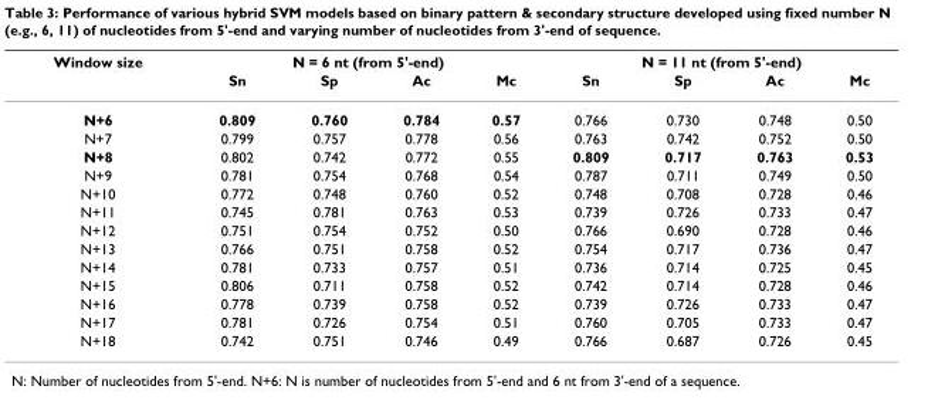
<table><thead><tr><td rowspan="2">Window size</td><td colspan="4">N = 6 nt (from 5&#x27;-end)</td><td colspan="4">N = 11 nt (from 5&#x27;-end)</td></tr><tr><td>Sn</td><td>Sp</td><td>Ac</td><td>Mc</td><td>Sn</td><td>Sp</td><td>Ac</td><td>Mc</td></tr></thead><tbody><tr><td>N+6</td><td>0.809</td><td>0.760</td><td>0.784</td><td>0.57</td><td>0.766</td><td>0.730</td><td>0.748</td><td>0.50</td></tr><tr><td>N+7</td><td>0.799</td><td>0.757</td><td>0.778</td><td>0.56</td><td>0.763</td><td>0.742</td><td>0.752</td><td>0.50</td></tr><tr><td>N+8</td><td>0.802</td><td>0.742</td><td>0.772</td><td>0.55</td><td>0.809</td><td>0.717</td><td>0.763</td><td>0.53</td></tr><tr><td>N+9</td><td>0.781</td><td>0.754</td><td>0.768</td><td>0.54</td><td>0.787</td><td>0.711</td><td>0.749</td><td>0.50</td></tr><tr><td>N+10</td><td>0.772</td><td>0.748</td><td>0.760</td><td>0.52</td><td>0.748</td><td>0.708</td><td>0.728</td><td>0.46</td></tr><tr><td>N+11</td><td>0.745</td><td>0.781</td><td>0.763</td><td>0.53</td><td>0.739</td><td>0.726</td><td>0.733</td><td>0.47</td></tr><tr><td>N+12</td><td>0.751</td><td>0.754</td><td>0.752</td><td>0.50</td><td>0.766</td><td>0.690</td><td>0.728</td><td>0.46</td></tr><tr><td>N+13</td><td>0.766</td><td>0.751</td><td>0.758</td><td>0.52</td><td>0.754</td><td>0.717</td><td>0.736</td><td>0.47</td></tr><tr><td>N+14</td><td>0.781</td><td>0.733</td><td>0.757</td><td>0.51</td><td>0.736</td><td>0.714</td><td>0.725</td><td>0.45</td></tr><tr><td>N+15</td><td>0.806</td><td>0.711</td><td>0.758</td><td>0.52</td><td>0.742</td><td>0.714</td><td>0.728</td><td>0.46</td></tr><tr><td>N+16</td><td>0.778</td><td>0.739</td><td>0.758</td><td>0.52</td><td>0.739</td><td>0.726</td><td>0.733</td><td>0.47</td></tr><tr><td>N+17</td><td>0.781</td><td>0.726</td><td>0.754</td><td>0.51</td><td>0.760</td><td>0.705</td><td>0.733</td><td>0.47</td></tr><tr><td>N+18</td><td>0.742</td><td>0.751</td><td>0.746</td><td>0.49</td><td>0.766</td><td>0.687</td><td>0.726</td><td>0.45</td></tr></tbody></table>